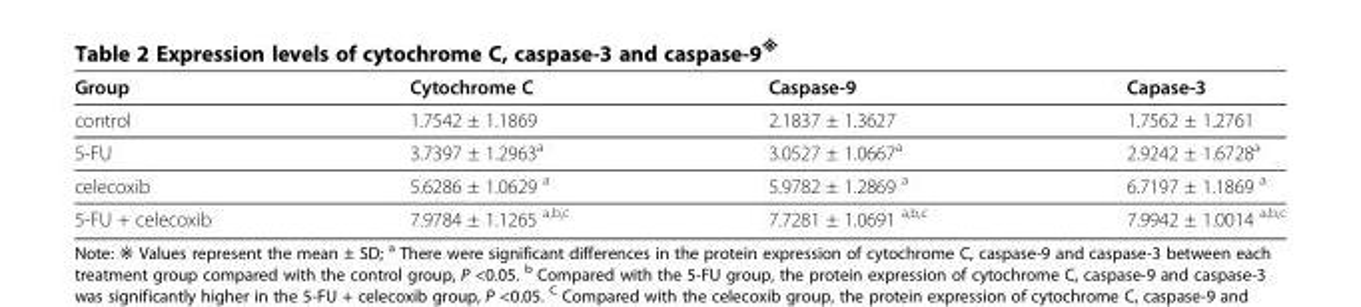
<table><thead><tr><td>Group</td><td>Cytochrome C</td><td>Caspase-9</td><td>Capase-3</td></tr></thead><tbody><tr><td>control</td><td>1.7542 ± 1.1869</td><td>2.1837 ± 1.3627</td><td>1.7562 ± 1.2761</td></tr><tr><td>5-FU</td><td>3.7397 ± 1.2963<sup>a</sup></td><td>3.0527 ± 1.0667<sup>a</sup></td><td>2.9242 ± 1.6728<sup>a</sup></td></tr><tr><td>celecoxib</td><td>5.6286 ± 1.0629 <sup>a</sup></td><td>5.9782 ± 1.2869 <sup>a</sup></td><td>6.7197 ± 1.1869 <sup>a</sup></td></tr><tr><td>5-FU + celecoxib</td><td>7.9784 ± 1.1265 <sup>a,b,c</sup></td><td>7.7281 ± 1.0691 <sup>a,b,c</sup></td><td>7.9942 ± 1.0014 <sup>a,b,c</sup></td></tr></tbody></table>